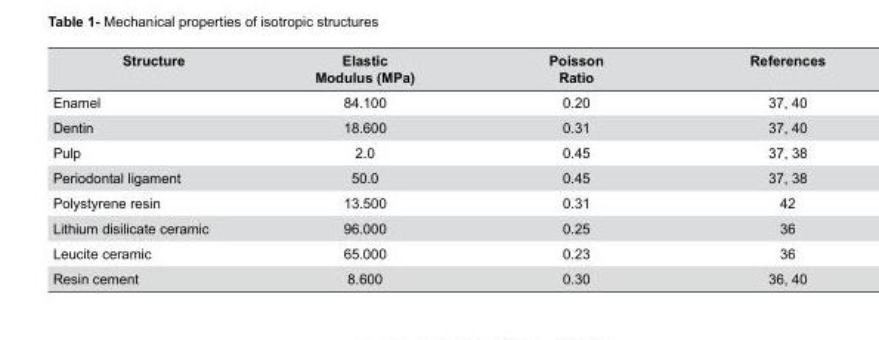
<table><thead><tr><td>Structure</td><td>Elastic Modulus (MPa)</td><td>Poisson Ratio</td><td>References</td></tr></thead><tbody><tr><td>Enamel</td><td>84.100</td><td>0.20</td><td>37, 40</td></tr><tr><td>Dentin</td><td>18.600</td><td>0.31</td><td>37, 40</td></tr><tr><td>Pulp</td><td>2.0</td><td>0.45</td><td>37, 38</td></tr><tr><td>Periodontal ligament</td><td>50.0</td><td>0.45</td><td>37, 38</td></tr><tr><td>Polystyrene resin</td><td>13.500</td><td>0.31</td><td>42</td></tr><tr><td>Lithium disilicate ceramic</td><td>96.000</td><td>0.25</td><td>36</td></tr><tr><td>Leucite ceramic</td><td>65.000</td><td>0.23</td><td>36</td></tr><tr><td>Resin cement</td><td>8.600</td><td>0.30</td><td>36, 40</td></tr></tbody></table>